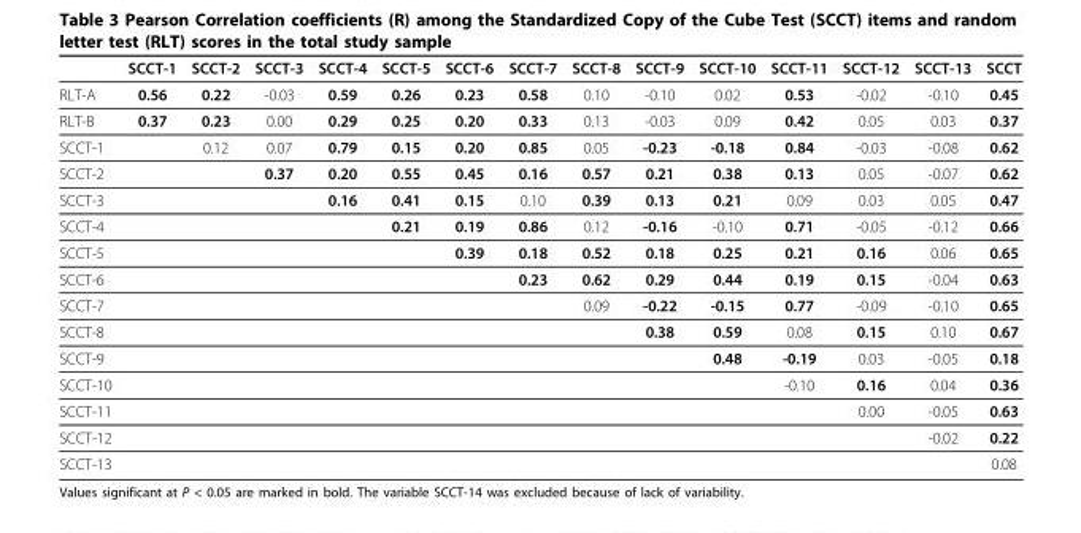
<table><thead><tr><td></td><td>SCCT-1</td><td>SCCT-2</td><td>SCCT-3</td><td>SCCT-4</td><td>SCCT-5</td><td>SCCT-6</td><td>SCCT-7</td><td>SCCT-8</td><td>SCCT-9</td><td>SCCT-10</td><td>SCCT-11</td><td>SCCT-12</td><td>SCCT-13</td><td>SCCT</td></tr></thead><tbody><tr><td>RLT-A</td><td>0.56</td><td>0.22</td><td>-0.03</td><td>0.59</td><td>0.26</td><td>0.23</td><td>0.58</td><td>0.10</td><td>-0.10</td><td>0.02</td><td>0.53</td><td>-0.02</td><td>-0.10</td><td>0.45</td></tr><tr><td>RLT-B</td><td>0.37</td><td>0.23</td><td>0.00</td><td>0.29</td><td>0.25</td><td>0.20</td><td>0.33</td><td>0.13</td><td>-0.03</td><td>0.09</td><td>0.42</td><td>0.05</td><td>0.03</td><td>0.37</td></tr><tr><td>SCCT-1</td><td></td><td>0.12</td><td>0.07</td><td>0.79</td><td>0.15</td><td>0.20</td><td>0.85</td><td>0.05</td><td>-0.23</td><td>-0.18</td><td>0.84</td><td>-0.03</td><td>-0.08</td><td>0.62</td></tr><tr><td>SCCT-2</td><td></td><td></td><td>0.37</td><td>0.20</td><td>0.55</td><td>0.45</td><td>0.16</td><td>0.57</td><td>0.21</td><td>0.38</td><td>0.13</td><td>0.05</td><td>-0.07</td><td>0.62</td></tr><tr><td>SCCT-3</td><td></td><td></td><td></td><td>0.16</td><td>0.41</td><td>0.15</td><td>0.10</td><td>0.39</td><td>0.13</td><td>0.21</td><td>0.09</td><td>0.03</td><td>0.05</td><td>0.47</td></tr><tr><td>SCCT-4</td><td></td><td></td><td></td><td></td><td>0.21</td><td>0.19</td><td>0.86</td><td>0.12</td><td>-0.16</td><td>-0.10</td><td>0.71</td><td>-0.05</td><td>-0.12</td><td>0.66</td></tr><tr><td>SCCT-5</td><td></td><td></td><td></td><td></td><td></td><td>0.39</td><td>0.18</td><td>0.52</td><td>0.18</td><td>0.25</td><td>0.21</td><td>0.16</td><td>0.06</td><td>0.65</td></tr><tr><td>SCCT-6</td><td></td><td></td><td></td><td></td><td></td><td></td><td>0.23</td><td>0.62</td><td>0.29</td><td>0.44</td><td>0.19</td><td>0.15</td><td>-0.04</td><td>0.63</td></tr><tr><td>SCCT-7</td><td></td><td></td><td></td><td></td><td></td><td></td><td></td><td>0.09</td><td>-0.22</td><td>-0.15</td><td>0.77</td><td>-0.09</td><td>-0.10</td><td>0.65</td></tr><tr><td>SCCT-8</td><td></td><td></td><td></td><td></td><td></td><td></td><td></td><td></td><td>0.38</td><td>0.59</td><td>0.08</td><td>0.15</td><td>0.10</td><td>0.67</td></tr><tr><td>SCCT-9</td><td></td><td></td><td></td><td></td><td></td><td></td><td></td><td></td><td></td><td>0.48</td><td>-0.19</td><td>0.03</td><td>-0.05</td><td>0.18</td></tr><tr><td>SCCT-10</td><td></td><td></td><td></td><td></td><td></td><td></td><td></td><td></td><td></td><td></td><td>-0.10</td><td>0.16</td><td>0.04</td><td>0.36</td></tr><tr><td>SCCT-11</td><td></td><td></td><td></td><td></td><td></td><td></td><td></td><td></td><td></td><td></td><td></td><td>0.00</td><td>-0.05</td><td>0.63</td></tr><tr><td>SCCT-12</td><td></td><td></td><td></td><td></td><td></td><td></td><td></td><td></td><td></td><td></td><td></td><td></td><td>-0.02</td><td>0.22</td></tr><tr><td>SCCT-13</td><td></td><td></td><td></td><td></td><td></td><td></td><td></td><td></td><td></td><td></td><td></td><td></td><td></td><td>0.08</td></tr></tbody></table>